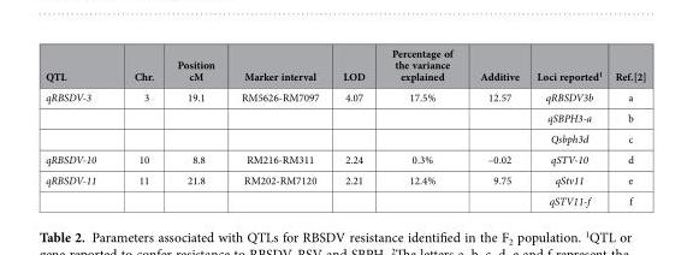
<table><thead><tr><td>QTL</td><td>Chr.</td><td>Position cM</td><td>Marker interval</td><td>LOD</td><td>Percentage of the variance explained</td><td>Additive</td><td>Loci reported<sup>1</sup></td><td>Ref.[2]</td></tr></thead><tbody><tr><td rowspan="3">qRBSDV-3</td><td>3</td><td>19.1</td><td>RM5626-RM7097</td><td>4.07</td><td>17.5%</td><td>12.57</td><td>qRBSDV3b</td><td>a</td></tr><tr><td></td><td></td><td></td><td></td><td></td><td></td><td>qSBPH3-a</td><td>b</td></tr><tr><td></td><td></td><td></td><td></td><td></td><td></td><td>Qsbph3d</td><td>c</td></tr><tr><td>qRBSDV-10</td><td>10</td><td>8.8</td><td>RM216-RM311</td><td>2.24</td><td>0.3%</td><td>–0.02</td><td>qSTV-10</td><td>d</td></tr><tr><td rowspan="2">qRBSDV-11</td><td>11</td><td>21.8</td><td>RM202-RM7120</td><td>2.21</td><td>12.4%</td><td>9.75</td><td>qStv11</td><td>e</td></tr><tr><td></td><td></td><td></td><td></td><td></td><td></td><td>qSTV11-f</td><td>f</td></tr></tbody></table>